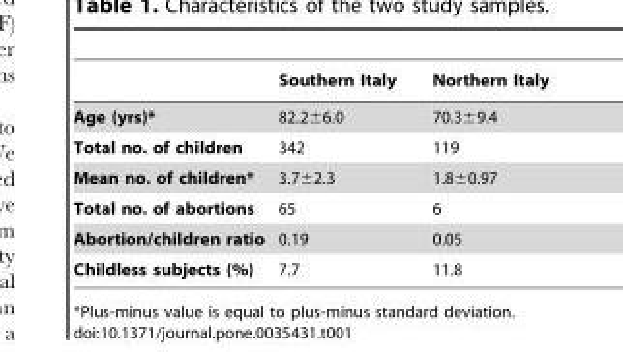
<table><thead><tr><td></td><td>Southern Italy</td><td>Northern Italy</td></tr></thead><tbody><tr><td>Age (yrs)*</td><td>82.2±6.0</td><td>70.3±9.4</td></tr><tr><td>Total no. of children</td><td>342</td><td>119</td></tr><tr><td>Mean no. of children*</td><td>3.7±2.3</td><td>1.8±0.97</td></tr><tr><td>Total no. of abortions</td><td>65</td><td>6</td></tr><tr><td>Abortion/children ratio</td><td>0.19</td><td>0.05</td></tr><tr><td>Childless subjects (%)</td><td>7.7</td><td>11.8</td></tr></tbody></table>